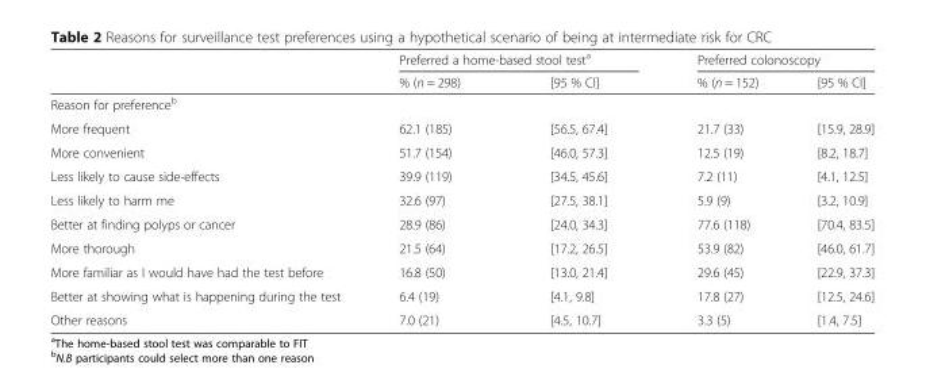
<table><thead><tr><td rowspan="2"></td><td colspan="2">Preferred a home-based stool test<sup>a</sup></td><td colspan="2">Preferred colonoscopy</td></tr><tr><td>% (n = 298)</td><td>[95 % CI]</td><td>% (n = 152)</td><td>[95 % CI]</td></tr></thead><tbody><tr><td colspan="5">Reason for preference<sup>b</sup></td></tr><tr><td>More frequent</td><td>62.1 (185)</td><td>[56.5, 67.4]</td><td>21.7 (33)</td><td>[15.9, 28.9]</td></tr><tr><td>More convenient</td><td>51.7 (154)</td><td>[46.0, 57.3]</td><td>12.5 (19)</td><td>[8.2, 18.7]</td></tr><tr><td>Less likely to cause side-effects</td><td>39.9 (119)</td><td>[34.5, 45.6]</td><td>7.2 (11)</td><td>[4.1, 12.5]</td></tr><tr><td>Less likely to harm me</td><td>32.6 (97)</td><td>[27.5, 38.1]</td><td>5.9 (9)</td><td>[3.2, 10.9]</td></tr><tr><td>Better at finding polyps or cancer</td><td>28.9 (86)</td><td>[24.0, 34.3]</td><td>77.6 (118)</td><td>[70.4, 83.5]</td></tr><tr><td>More thorough</td><td>21.5 (64)</td><td>[17.2, 26.5]</td><td>53.9 (82)</td><td>[46.0, 61.7]</td></tr><tr><td>More familiar as I would have had the test before</td><td>16.8 (50)</td><td>[13.0, 21.4]</td><td>29.6 (45)</td><td>[22.9, 37.3]</td></tr><tr><td>Better at showing what is happening during the test</td><td>6.4 (19)</td><td>[4.1, 9.8]</td><td>17.8 (27)</td><td>[12.5, 24.6]</td></tr><tr><td>Other reasons</td><td>7.0 (21)</td><td>[4.5, 10.7]</td><td>3.3 (5)</td><td>[1.4, 7.5]</td></tr></tbody></table>